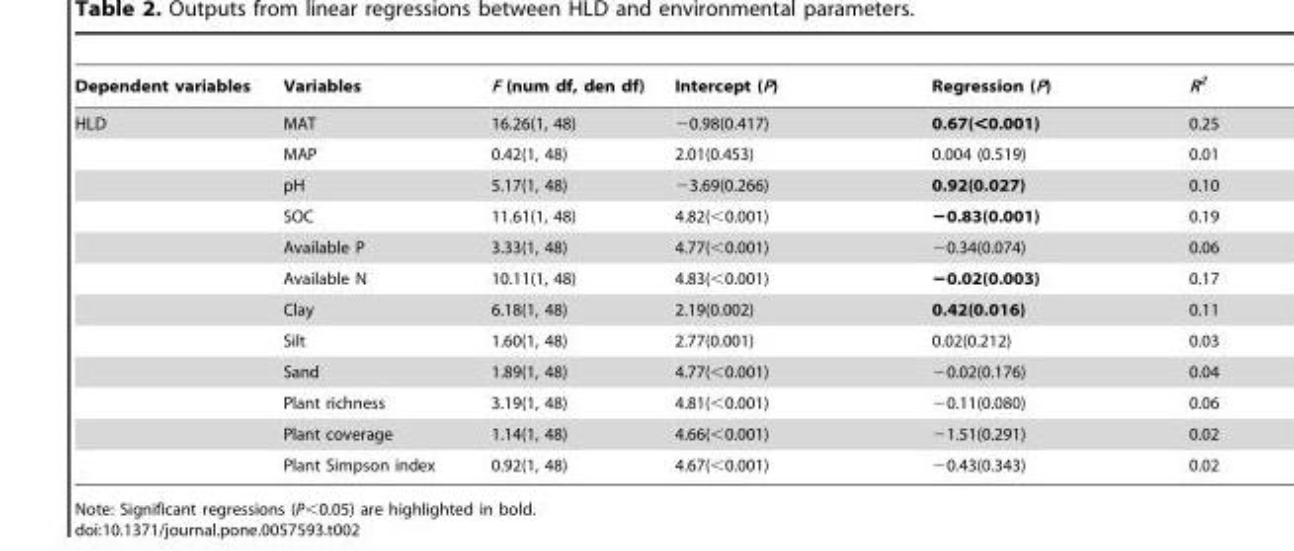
<table><thead><tr><td>Dependent variables</td><td>Variables</td><td>F (num df, den df)</td><td>Intercept (P)</td><td>Regression (P)</td><td>R<sup>2</sup></td></tr></thead><tbody><tr><td rowspan="12">HLD</td><td>MAT</td><td>16.26(1, 48)</td><td>−0.98(0.417)</td><td>0.67(&lt;0.001)</td><td>0.25</td></tr><tr><td>MAP</td><td>0.42(1, 48)</td><td>2.01(0.453)</td><td>0.004 (0.519)</td><td>0.01</td></tr><tr><td>pH</td><td>5.17(1, 48)</td><td>−3.69(0.266)</td><td>0.92(0.027)</td><td>0.10</td></tr><tr><td>SOC</td><td>11.61(1, 48)</td><td>4.82(&lt;0.001)</td><td>−0.83(0.001)</td><td>0.19</td></tr><tr><td>Available P</td><td>3.33(1, 48)</td><td>4.77(&lt;0.001)</td><td>−0.34(0.074)</td><td>0.06</td></tr><tr><td>Available N</td><td>10.11(1, 48)</td><td>4.83(&lt;0.001)</td><td>−0.02(0.003)</td><td>0.17</td></tr><tr><td>Clay</td><td>6.18(1, 48)</td><td>2.19(0.002)</td><td>0.42(0.016)</td><td>0.11</td></tr><tr><td>Silt</td><td>1.60(1, 48)</td><td>2.77(0.001)</td><td>0.02(0.212)</td><td>0.03</td></tr><tr><td>Sand</td><td>1.89(1, 48)</td><td>4.77(&lt;0.001)</td><td>−0.02(0.176)</td><td>0.04</td></tr><tr><td>Plant richness</td><td>3.19(1, 48)</td><td>4.81(&lt;0.001)</td><td>−0.11(0.080)</td><td>0.06</td></tr><tr><td>Plant coverage</td><td>1.14(1, 48)</td><td>4.66(&lt;0.001)</td><td>−1.51(0.291)</td><td>0.02</td></tr><tr><td>Plant Simpson index</td><td>0.92(1, 48)</td><td>4.67(&lt;0.001)</td><td>−0.43(0.343)</td><td>0.02</td></tr></tbody></table>